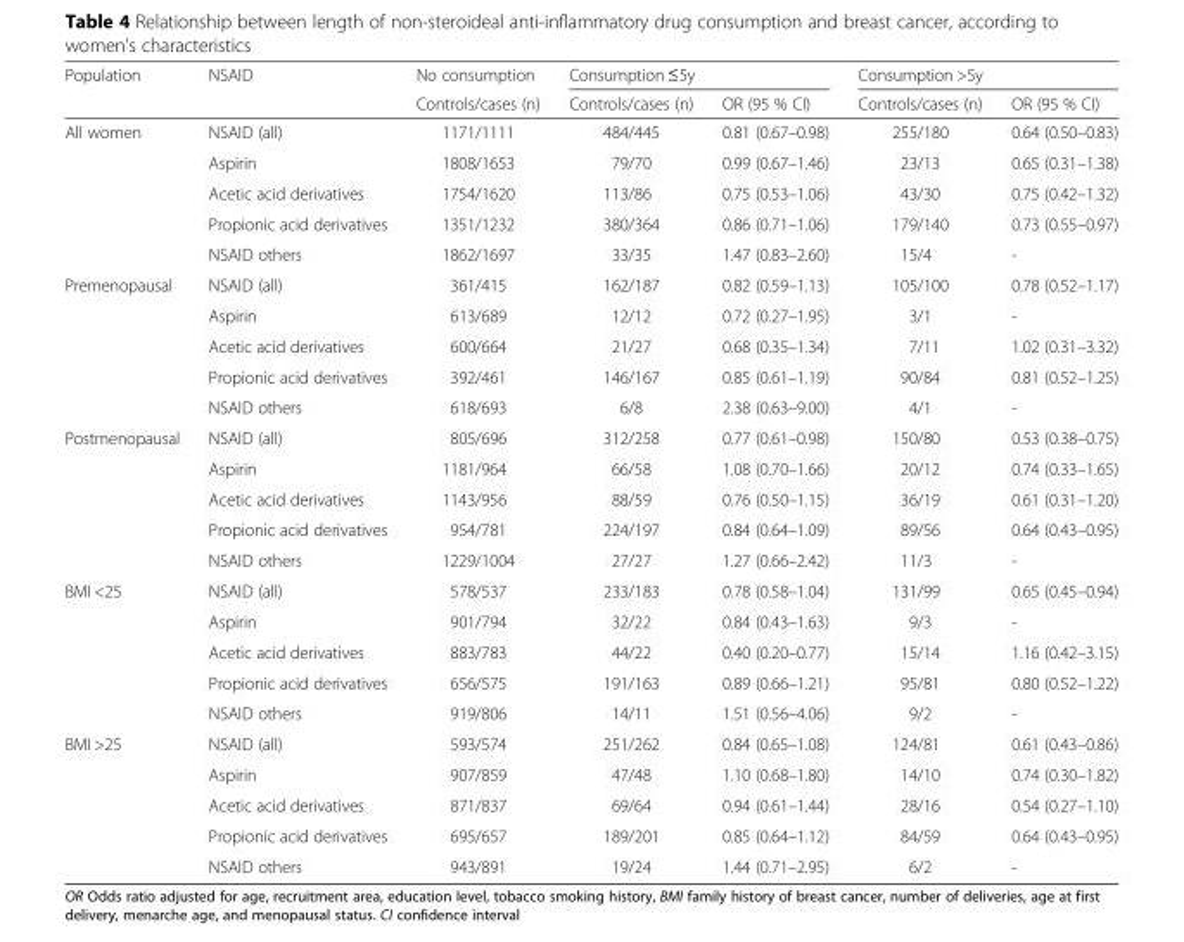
<table><thead><tr><td rowspan="2">Population</td><td rowspan="2">NSAID</td><td rowspan="2">No consumption Controls/cases (n)</td><td colspan="2">Consumption ≤5y</td><td colspan="2">Consumption &gt;5y</td></tr><tr><td>Controls/cases (n)</td><td>OR (95 % CI)</td><td>Controls/cases (n)</td><td>OR (95 % CI)</td></tr></thead><tbody><tr><td rowspan="5">All women</td><td>NSAID (all)</td><td>1171/1111</td><td>484/445</td><td>0.81 (0.67–0.98)</td><td>255/180</td><td>0.64 (0.50–0.83)</td></tr><tr><td>Aspirin</td><td>1808/1653</td><td>79/70</td><td>0.99 (0.67–1.46)</td><td>23/13</td><td>0.65 (0.31–1.38)</td></tr><tr><td>Acetic acid derivatives</td><td>1754/1620</td><td>113/86</td><td>0.75 (0.53–1.06)</td><td>43/30</td><td>0.75 (0.42–1.32)</td></tr><tr><td>Propionic acid derivatives</td><td>1351/1232</td><td>380/364</td><td>0.86 (0.71–1.06)</td><td>179/140</td><td>0.73 (0.55–0.97)</td></tr><tr><td>NSAID others</td><td>1862/1697</td><td>33/35</td><td>1.47 (0.83–2.60)</td><td>15/4</td><td>-</td></tr><tr><td rowspan="5">Premenopausal</td><td>NSAID (all)</td><td>361/415</td><td>162/187</td><td>0.82 (0.59–1.13)</td><td>105/100</td><td>0.78 (0.52–1.17)</td></tr><tr><td>Aspirin</td><td>613/689</td><td>12/12</td><td>0.72 (0.27–1.95)</td><td>3/1</td><td>-</td></tr><tr><td>Acetic acid derivatives</td><td>600/664</td><td>21/27</td><td>0.68 (0.35–1.34)</td><td>7/11</td><td>1.02 (0.31–3.32)</td></tr><tr><td>Propionic acid derivatives</td><td>392/461</td><td>146/167</td><td>0.85 (0.61–1.19)</td><td>90/84</td><td>0.81 (0.52–1.25)</td></tr><tr><td>NSAID others</td><td>618/693</td><td>6/8</td><td>2.38 (0.63–9.00)</td><td>4/1</td><td>-</td></tr><tr><td rowspan="5">Postmenopausal</td><td>NSAID (all)</td><td>805/696</td><td>312/258</td><td>0.77 (0.61–0.98)</td><td>150/80</td><td>0.53 (0.38–0.75)</td></tr><tr><td>Aspirin</td><td>1181/964</td><td>66/58</td><td>1.08 (0.70–1.66)</td><td>20/12</td><td>0.74 (0.33–1.65)</td></tr><tr><td>Acetic acid derivatives</td><td>1143/956</td><td>88/59</td><td>0.76 (0.50–1.15)</td><td>36/19</td><td>0.61 (0.31–1.20)</td></tr><tr><td>Propionic acid derivatives</td><td>954/781</td><td>224/197</td><td>0.84 (0.64–1.09)</td><td>89/56</td><td>0.64 (0.43–0.95)</td></tr><tr><td>NSAID others</td><td>1229/1004</td><td>27/27</td><td>1.27 (0.66–2.42)</td><td>11/3</td><td>-</td></tr><tr><td rowspan="5">BMI &lt;25</td><td>NSAID (all)</td><td>578/537</td><td>233/183</td><td>0.78 (0.58–1.04)</td><td>131/99</td><td>0.65 (0.45–0.94)</td></tr><tr><td>Aspirin</td><td>901/794</td><td>32/22</td><td>0.84 (0.43–1.63)</td><td>9/3</td><td>-</td></tr><tr><td>Acetic acid derivatives</td><td>883/783</td><td>44/22</td><td>0.40 (0.20–0.77)</td><td>15/14</td><td>1.16 (0.42–3.15)</td></tr><tr><td>Propionic acid derivatives</td><td>656/575</td><td>191/163</td><td>0.89 (0.66–1.21)</td><td>95/81</td><td>0.80 (0.52–1.22)</td></tr><tr><td>NSAID others</td><td>919/806</td><td>14/11</td><td>1.51 (0.56–4.06)</td><td>9/2</td><td>-</td></tr><tr><td rowspan="5">BMI &gt;25</td><td>NSAID (all)</td><td>593/574</td><td>251/262</td><td>0.84 (0.65–1.08)</td><td>124/81</td><td>0.61 (0.43–0.86)</td></tr><tr><td>Aspirin</td><td>907/859</td><td>47/48</td><td>1.10 (0.68–1.80)</td><td>14/10</td><td>0.74 (0.30–1.82)</td></tr><tr><td>Acetic acid derivatives</td><td>871/837</td><td>69/64</td><td>0.94 (0.61–1.44)</td><td>28/16</td><td>0.54 (0.27–1.10)</td></tr><tr><td>Propionic acid derivatives</td><td>695/657</td><td>189/201</td><td>0.85 (0.64–1.12)</td><td>84/59</td><td>0.64 (0.43–0.95)</td></tr><tr><td>NSAID others</td><td>943/891</td><td>19/24</td><td>1.44 (0.71–2.95)</td><td>6/2</td><td>-</td></tr></tbody></table>